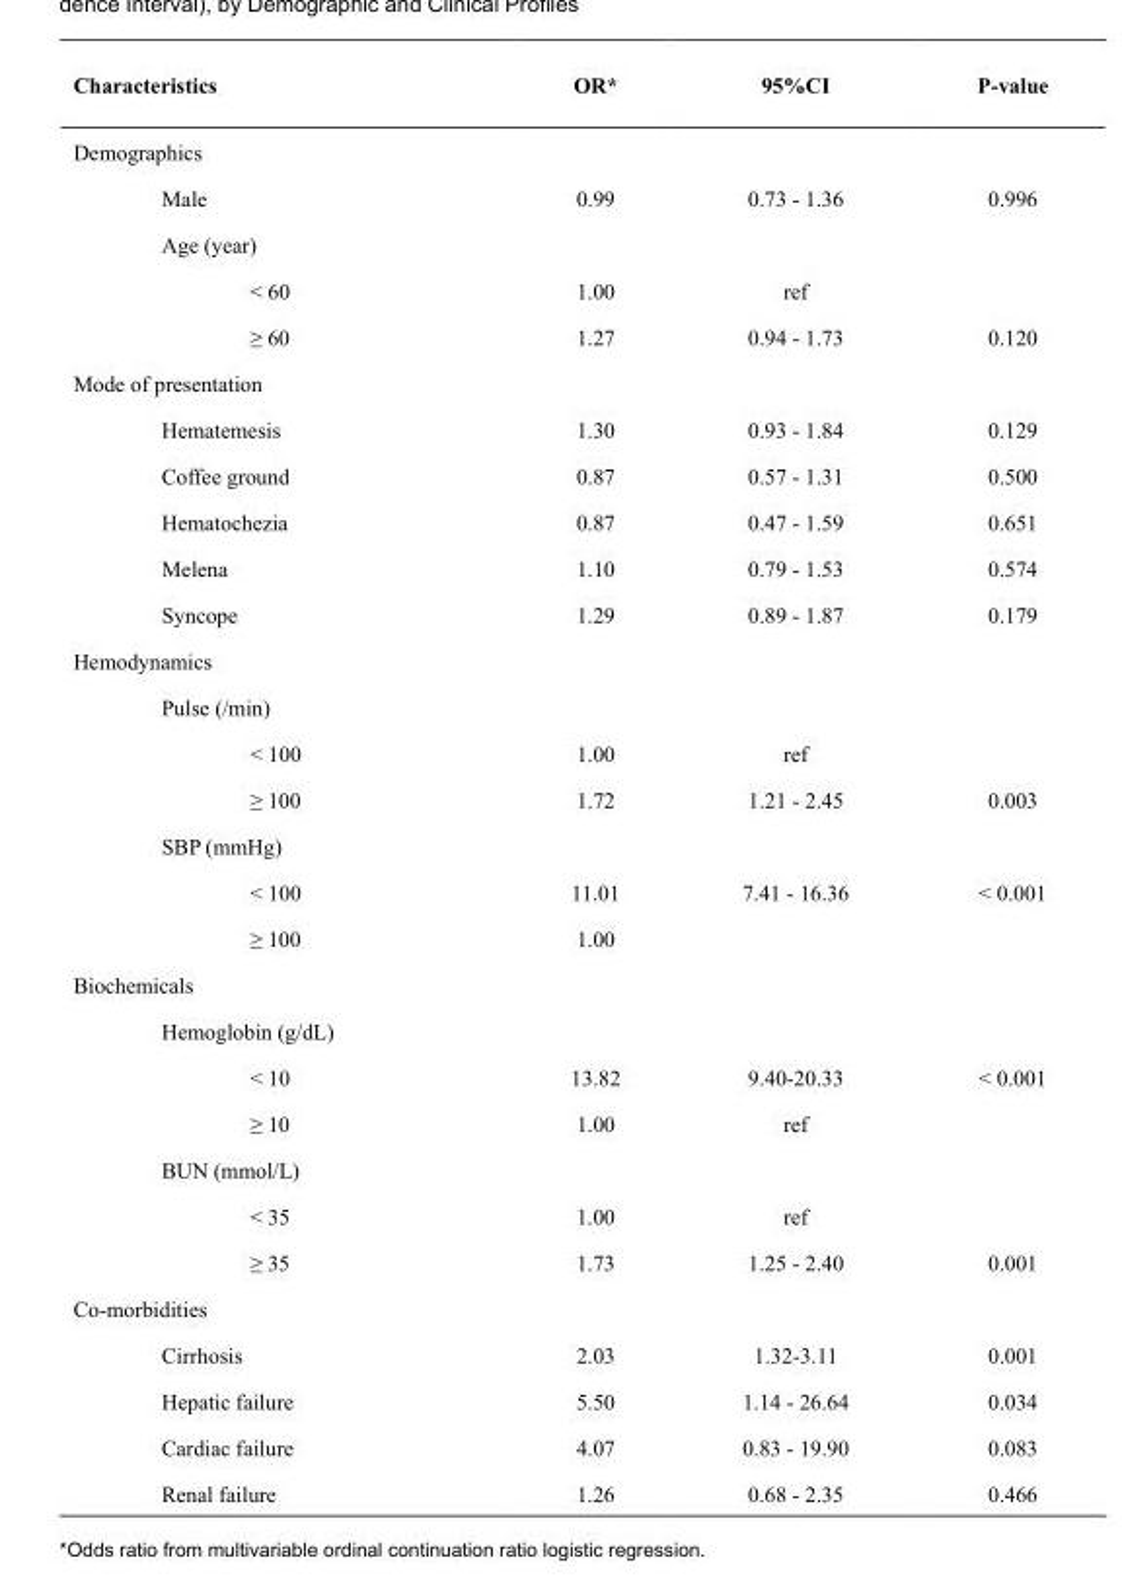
<table><thead><tr><td>Characteristics</td><td>OR*</td><td>95%CI</td><td>P-value</td></tr></thead><tbody><tr><td colspan="4">Demographics</td></tr><tr><td>Male</td><td>0.99</td><td>0.73 - 1.36</td><td>0.996</td></tr><tr><td colspan="4">Age (year)</td></tr><tr><td>&lt; 60</td><td>1.00</td><td>ref</td><td></td></tr><tr><td>≥ 60</td><td>1.27</td><td>0.94 - 1.73</td><td>0.120</td></tr><tr><td colspan="4">Mode of presentation</td></tr><tr><td>Hematemesis</td><td>1.30</td><td>0.93 - 1.84</td><td>0.129</td></tr><tr><td>Coffee ground</td><td>0.87</td><td>0.57 - 1.31</td><td>0.500</td></tr><tr><td>Hematochezia</td><td>0.87</td><td>0.47 - 1.59</td><td>0.651</td></tr><tr><td>Melena</td><td>1.10</td><td>0.79 - 1.53</td><td>0.574</td></tr><tr><td>Syncope</td><td>1.29</td><td>0.89 - 1.87</td><td>0.179</td></tr><tr><td colspan="4">Hemodynamics</td></tr><tr><td colspan="4">Pulse (/min)</td></tr><tr><td>&lt; 100</td><td>1.00</td><td>ref</td><td></td></tr><tr><td>≥ 100</td><td>1.72</td><td>1.21 - 2.45</td><td>0.003</td></tr><tr><td colspan="4">SBP (mmHg)</td></tr><tr><td>&lt; 100</td><td>11.01</td><td>7.41 - 16.36</td><td>&lt; 0.001</td></tr><tr><td>≥ 100</td><td>1.00</td><td></td><td></td></tr><tr><td colspan="4">Biochemicals</td></tr><tr><td colspan="4">Hemoglobin (g/dL)</td></tr><tr><td>&lt; 10</td><td>13.82</td><td>9.40-20.33</td><td>&lt; 0.001</td></tr><tr><td>≥ 10</td><td>1.00</td><td>ref</td><td></td></tr><tr><td colspan="4">BUN (mmol/L)</td></tr><tr><td>&lt; 35</td><td>1.00</td><td>ref</td><td></td></tr><tr><td>≥ 35</td><td>1.73</td><td>1.25 - 2.40</td><td>0.001</td></tr><tr><td colspan="4">Co-morbidities</td></tr><tr><td>Cirrhosis</td><td>2.03</td><td>1.32-3.11</td><td>0.001</td></tr><tr><td>Hepatic failure</td><td>5.50</td><td>1.14 - 26.64</td><td>0.034</td></tr><tr><td>Cardiac failure</td><td>4.07</td><td>0.83 - 19.90</td><td>0.083</td></tr><tr><td>Renal failure</td><td>1.26</td><td>0.68 - 2.35</td><td>0.466</td></tr></tbody></table>